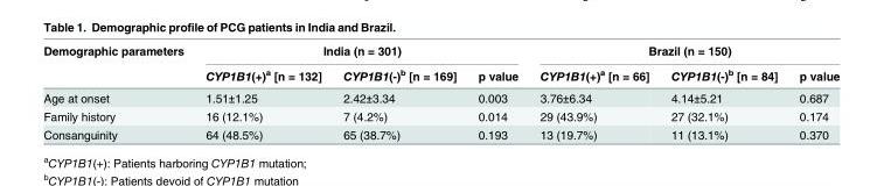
<table><thead><tr><td rowspan="2">Demographic parameters</td><td colspan="3">India (n = 301)</td><td colspan="3">Brazil (n = 150)</td></tr><tr><td>CYP1B1(+)<sup>a</sup> [n = 132]</td><td>CYP1B1(-)<sup>b</sup> [n = 169]</td><td>p value</td><td>CYP1B1(+)<sup>a</sup> [n = 66]</td><td>CYP1B1(-)<sup>b</sup> [n = 84]</td><td>p value</td></tr></thead><tbody><tr><td>Age at onset</td><td>1.51±1.25</td><td>2.42±3.34</td><td>0.003</td><td>3.76±6.34</td><td>4.14±5.21</td><td>0.687</td></tr><tr><td>Family history</td><td>16 (12.1%)</td><td>7 (4.2%)</td><td>0.014</td><td>29 (43.9%)</td><td>27 (32.1%)</td><td>0.174</td></tr><tr><td>Consanguinity</td><td>64 (48.5%)</td><td>65 (38.7%)</td><td>0.193</td><td>13 (19.7%)</td><td>11 (13.1%)</td><td>0.370</td></tr></tbody></table>